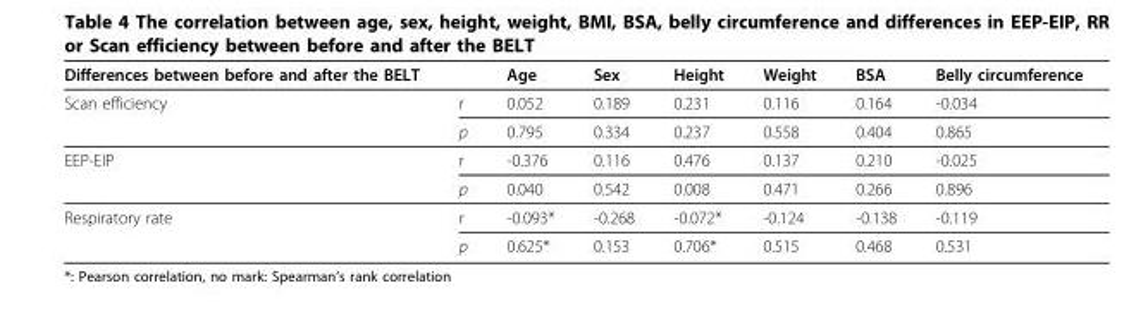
<table><thead><tr><td>Differences between before and after the BELT</td><td></td><td>Age</td><td>Sex</td><td>Height</td><td>Weight</td><td>BSA</td><td>Belly circumference</td></tr></thead><tbody><tr><td rowspan="2">Scan efficiency</td><td>r</td><td>0.052</td><td>0.189</td><td>0.231</td><td>0.116</td><td>0.164</td><td>-0.034</td></tr><tr><td>p</td><td>0.795</td><td>0.334</td><td>0.237</td><td>0.558</td><td>0.404</td><td>0.865</td></tr><tr><td rowspan="2">EEP-EIP</td><td>r</td><td>-0.376</td><td>0.116</td><td>0.476</td><td>0.137</td><td>0.210</td><td>-0.025</td></tr><tr><td>p</td><td>0.040</td><td>0.542</td><td>0.008</td><td>0.471</td><td>0.266</td><td>0.896</td></tr><tr><td rowspan="2">Respiratory rate</td><td>r</td><td>-0.093*</td><td>-0.268</td><td>-0.072*</td><td>-0.124</td><td>-0.138</td><td>-0.119</td></tr><tr><td>p</td><td>0.625*</td><td>0.153</td><td>0.706*</td><td>0.515</td><td>0.468</td><td>0.531</td></tr></tbody></table>